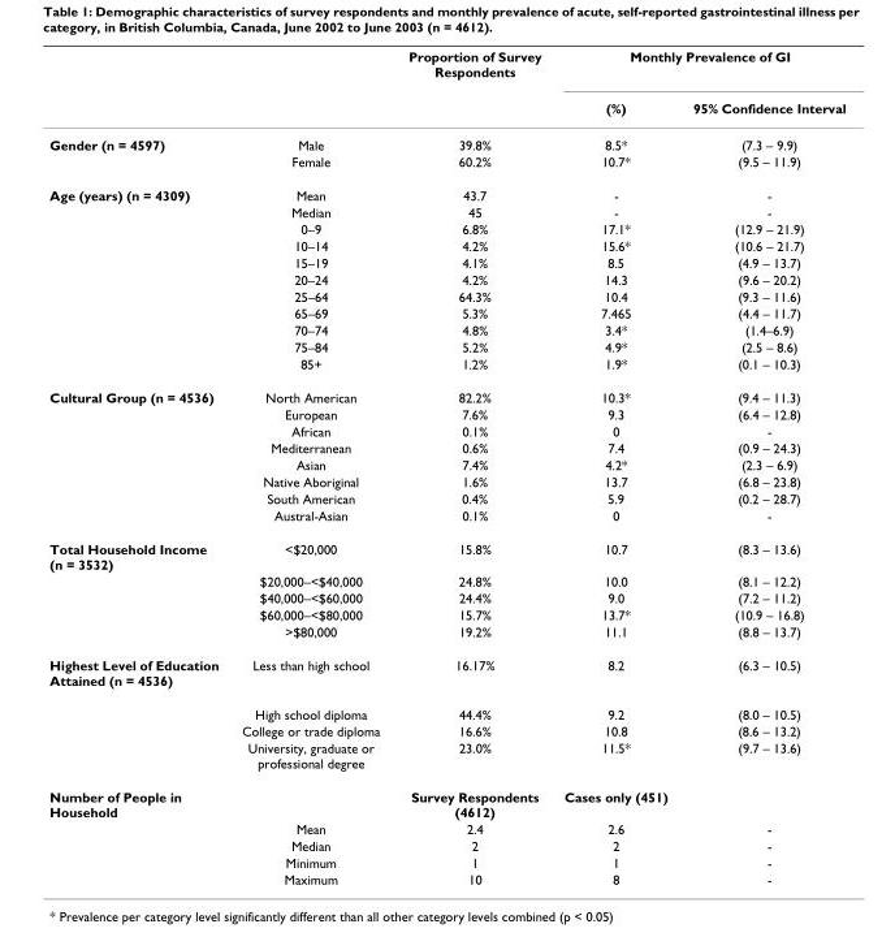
<table><thead><tr><td rowspan="2"></td><td rowspan="2"></td><td rowspan="2">Proportion of Survey Respondents</td><td colspan="2">Monthly Prevalence of GI</td></tr><tr><td>(%)</td><td>95% Confidence Interval</td></tr></thead><tbody><tr><td rowspan="2">Gender (n = 4597)</td><td>Male</td><td>39.8%</td><td>8.5*</td><td>(7.3 – 9.9)</td></tr><tr><td>Female</td><td>60.2%</td><td>10.7*</td><td>(9.5 – 11.9)</td></tr><tr><td rowspan="11">Age (years) (n = 4309)</td><td>Mean</td><td>43.7</td><td>-</td><td>-</td></tr><tr><td>Median</td><td>45</td><td>-</td><td>-</td></tr><tr><td>0–9</td><td>6.8%</td><td>17.1*</td><td>(12.9 – 21.9)</td></tr><tr><td>10–14</td><td>4.2%</td><td>15.6*</td><td>(10.6 – 21.7)</td></tr><tr><td>15–19</td><td>4.1%</td><td>8.5</td><td>(4.9 – 13.7)</td></tr><tr><td>20–24</td><td>4.2%</td><td>14.3</td><td>(9.6 – 20.2)</td></tr><tr><td>25–64</td><td>64.3%</td><td>10.4</td><td>(9.3 – 11.6)</td></tr><tr><td>65–69</td><td>5.3%</td><td>7.465</td><td>(4.4 – 11.7)</td></tr><tr><td>70–74</td><td>4.8%</td><td>3.4*</td><td>(1.4–6.9)</td></tr><tr><td>75–84</td><td>5.2%</td><td>4.9*</td><td>(2.5 – 8.6)</td></tr><tr><td>85+</td><td>1.2%</td><td>1.9*</td><td>(0.1 – 10.3)</td></tr><tr><td rowspan="8">Cultural Group (n = 4536)</td><td>North American</td><td>82.2%</td><td>10.3*</td><td>(9.4 – 11.3)</td></tr><tr><td>European</td><td>7.6%</td><td>9.3</td><td>(6.4 – 12.8)</td></tr><tr><td>African</td><td>0.1%</td><td>0</td><td>-</td></tr><tr><td>Mediterranean</td><td>0.6%</td><td>7.4</td><td>(0.9 – 24.3)</td></tr><tr><td>Asian</td><td>7.4%</td><td>4.2*</td><td>(2.3 – 6.9)</td></tr><tr><td>Native Aboriginal</td><td>1.6%</td><td>13.7</td><td>(6.8 – 23.8)</td></tr><tr><td>South American</td><td>0.4%</td><td>5.9</td><td>(0.2 – 28.7)</td></tr><tr><td>Austral-Asian</td><td>0.1%</td><td>0</td><td>-</td></tr><tr><td rowspan="5">Total Household Income (n = 3532)</td><td>&lt;$20,000</td><td>15.8%</td><td>10.7</td><td>(8.3 – 13.6)</td></tr><tr><td>$20,000–&lt;$40,000</td><td>24.8%</td><td>10.0</td><td>(8.1 – 12.2)</td></tr><tr><td>$40,000–&lt;$60,000</td><td>24.4%</td><td>9.0</td><td>(7.2 – 11.2)</td></tr><tr><td>$60,000–&lt;$80,000</td><td>15.7%</td><td>13.7*</td><td>(10.9 – 16.8)</td></tr><tr><td>&gt;$80,000</td><td>19.2%</td><td>11.1</td><td>(8.8 – 13.7)</td></tr><tr><td rowspan="4">Highest Level of Education Attained (n = 4536)</td><td>Less than high school</td><td>16.17%</td><td>8.2</td><td>(6.3 – 10.5)</td></tr><tr><td>High school diploma</td><td>44.4%</td><td>9.2</td><td>(8.0 – 10.5)</td></tr><tr><td>College or trade diploma</td><td>16.6%</td><td>10.8</td><td>(8.6 – 13.2)</td></tr><tr><td>University, graduate or professional degree</td><td>23.0%</td><td>11.5*</td><td>(9.7 – 13.6)</td></tr><tr><td rowspan="5">Number of People in Household</td><td></td><td>Survey Respondents (4612)</td><td>Cases only (451)</td><td></td></tr><tr><td>Mean</td><td>2.4</td><td>2.6</td><td>-</td></tr><tr><td>Median</td><td>2</td><td>2</td><td>-</td></tr><tr><td>Minimum</td><td>1</td><td>1</td><td>-</td></tr><tr><td>Maximum</td><td>10</td><td>8</td><td>-</td></tr></tbody></table>